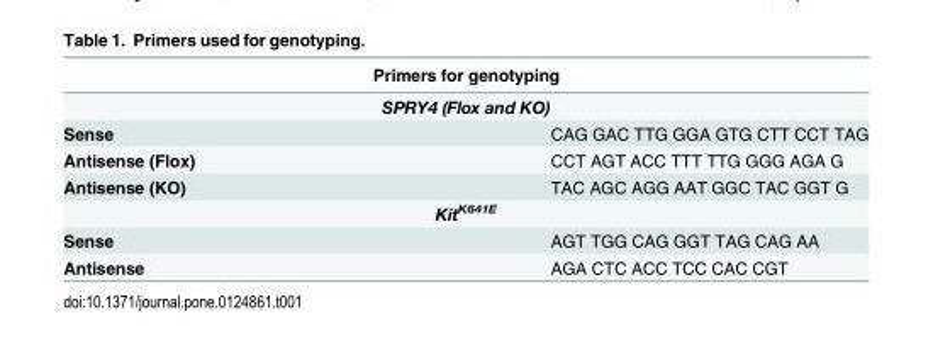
<table><thead><tr><td rowspan="2" colspan="2">Primers for genotyping SPRY4 (Flox and KO)</td></tr><tr></tr><tr><td>Sense</td><td>CAG GAC TTG GGA GTG CTT CCT TAG</td></tr></thead><tbody><tr><td>Antisense (Flox)</td><td>CCT AGT ACC TTT TTG GGG AGA G</td></tr><tr><td>Antisense (KO)</td><td>TAC AGC AGG AAT GGC TAC GGT G</td></tr><tr><td colspan="2">Kit<sup>K641E</sup></td></tr><tr><td>Sense</td><td>AGT TGG CAG GGT TAG CAG AA</td></tr><tr><td>Antisense</td><td>AGA CTC ACC TCC CAC CGT</td></tr></tbody></table>